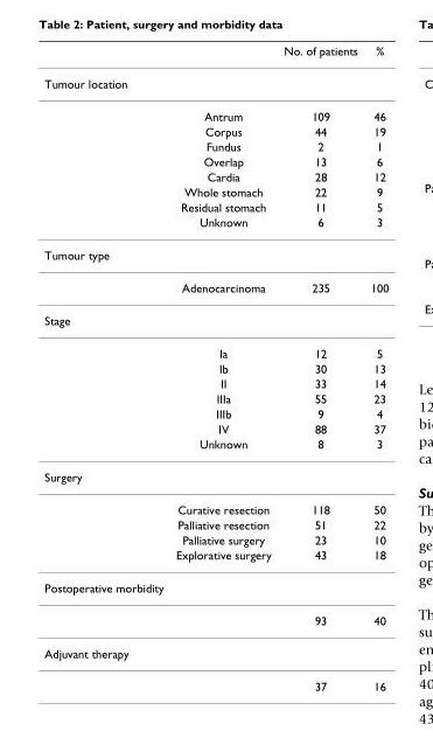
<table><thead><tr><td></td><td></td><td>No. of patients</td><td>%</td></tr></thead><tbody><tr><td colspan="4">Tumour location</td></tr><tr><td></td><td>Antrum</td><td>109</td><td>46</td></tr><tr><td></td><td>Corpus</td><td>44</td><td>19</td></tr><tr><td></td><td>Fundus</td><td>2</td><td>1</td></tr><tr><td></td><td>Overlap</td><td>13</td><td>6</td></tr><tr><td></td><td>Cardia</td><td>28</td><td>12</td></tr><tr><td></td><td>Whole stomach</td><td>22</td><td>9</td></tr><tr><td></td><td>Residual stomach</td><td>11</td><td>5</td></tr><tr><td></td><td>Unknown</td><td>6</td><td>3</td></tr><tr><td colspan="4">Tumour type</td></tr><tr><td></td><td>Adenocarcinoma</td><td>235</td><td>100</td></tr><tr><td colspan="4">Stage</td></tr><tr><td></td><td>Ia</td><td>12</td><td>5</td></tr><tr><td></td><td>Ib</td><td>30</td><td>13</td></tr><tr><td></td><td>II</td><td>33</td><td>14</td></tr><tr><td></td><td>IIIa</td><td>55</td><td>23</td></tr><tr><td></td><td>IIIb</td><td>9</td><td>4</td></tr><tr><td></td><td>IV</td><td>88</td><td>37</td></tr><tr><td></td><td>Unknown</td><td>8</td><td>3</td></tr><tr><td colspan="4">Surgery</td></tr><tr><td></td><td>Curative resection</td><td>118</td><td>50</td></tr><tr><td></td><td>Palliative resection</td><td>51</td><td>22</td></tr><tr><td></td><td>Palliative surgery</td><td>23</td><td>10</td></tr><tr><td></td><td>Explorative surgery</td><td>43</td><td>18</td></tr><tr><td colspan="4">Postoperative morbidity</td></tr><tr><td></td><td></td><td>93</td><td>40</td></tr><tr><td colspan="4">Adjuvant therapy</td></tr><tr><td></td><td></td><td>37</td><td>16</td></tr></tbody></table>